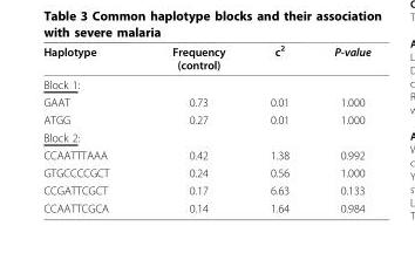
<table><thead><tr><td>Haplotype</td><td>Frequency (control)</td><td>c<sup>2</sup></td><td>P-value</td></tr></thead><tbody><tr><td colspan="4">Block 1:</td></tr><tr><td>GAAT</td><td>0.73</td><td>0.01</td><td>1.000</td></tr><tr><td>ATGG</td><td>0.27</td><td>0.01</td><td>1.000</td></tr><tr><td colspan="4">Block 2:</td></tr><tr><td>CCAATTTAAA</td><td>0.42</td><td>1.38</td><td>0.992</td></tr><tr><td>GTGCCCCGCT</td><td>0.24</td><td>0.56</td><td>1.000</td></tr><tr><td>CCGATTCGCT</td><td>0.17</td><td>6.63</td><td>0.133</td></tr><tr><td>CCAATTCGCA</td><td>0.14</td><td>1.64</td><td>0.984</td></tr></tbody></table>